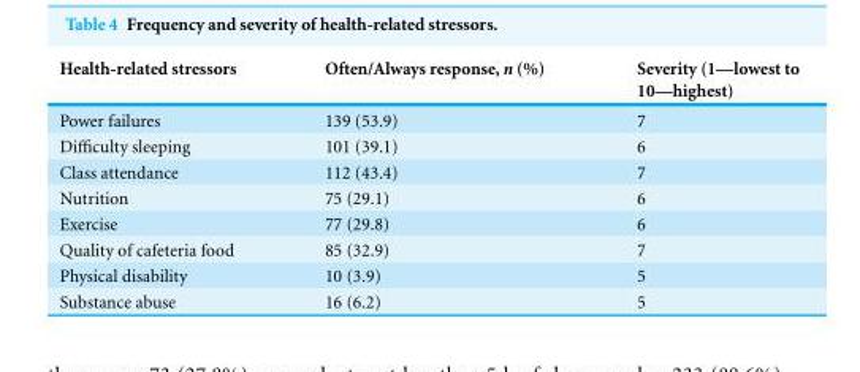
<table><thead><tr><td>Health-related stressors</td><td>Often/Always response, n (%)</td><td>Severity (1—lowest to 10—highest)</td></tr></thead><tbody><tr><td>Power failures</td><td>139 (53.9)</td><td>7</td></tr><tr><td>Difficulty sleeping</td><td>101 (39.1)</td><td>6</td></tr><tr><td>Class attendance</td><td>112 (43.4)</td><td>7</td></tr><tr><td>Nutrition</td><td>75 (29.1)</td><td>6</td></tr><tr><td>Exercise</td><td>77 (29.8)</td><td>6</td></tr><tr><td>Quality of cafeteria food</td><td>85 (32.9)</td><td>7</td></tr><tr><td>Physical disability</td><td>10 (3.9)</td><td>5</td></tr><tr><td>Substance abuse</td><td>16 (6.2)</td><td>5</td></tr></tbody></table>